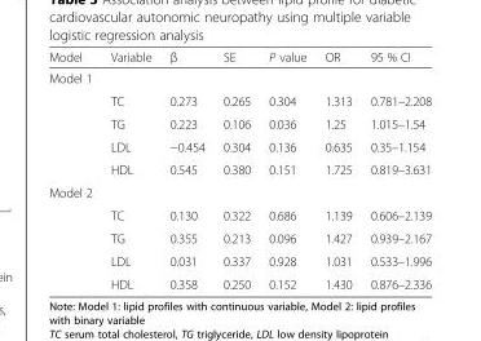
<table><thead><tr><td>Model</td><td>Variable</td><td>β</td><td>SE</td><td>P value</td><td>OR</td><td>95 % CI</td></tr></thead><tbody><tr><td colspan="7">Model 1</td></tr><tr><td></td><td>TC</td><td>0.273</td><td>0.265</td><td>0.304</td><td>1.313</td><td>0.781–2.208</td></tr><tr><td></td><td>TG</td><td>0.223</td><td>0.106</td><td>0.036</td><td>1.25</td><td>1.015–1.54</td></tr><tr><td></td><td>LDL</td><td>−0.454</td><td>0.304</td><td>0.136</td><td>0.635</td><td>0.35–1.154</td></tr><tr><td></td><td>HDL</td><td>0.545</td><td>0.380</td><td>0.151</td><td>1.725</td><td>0.819–3.631</td></tr><tr><td colspan="7">Model 2</td></tr><tr><td></td><td>TC</td><td>0.130</td><td>0.322</td><td>0.686</td><td>1.139</td><td>0.606–2.139</td></tr><tr><td></td><td>TG</td><td>0.355</td><td>0.213</td><td>0.096</td><td>1.427</td><td>0.939–2.167</td></tr><tr><td></td><td>LDL</td><td>0.031</td><td>0.337</td><td>0.928</td><td>1.031</td><td>0.533–1.996</td></tr><tr><td></td><td>HDL</td><td>0.358</td><td>0.250</td><td>0.152</td><td>1.430</td><td>0.876–2.336</td></tr></tbody></table>